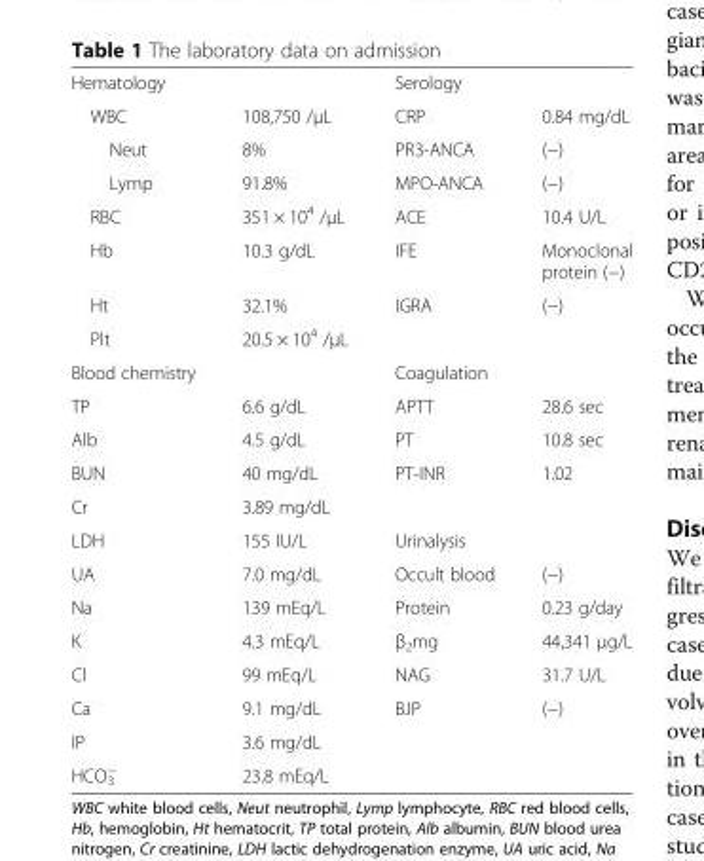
<table><tbody><tr><td>Hematology</td><td></td><td>Serology</td><td></td></tr><tr><td>WBC</td><td>108,750 /μL</td><td>CRP</td><td>0.84 mg/dL</td></tr><tr><td>Neut</td><td>8%</td><td>PR3-ANCA</td><td>(−)</td></tr><tr><td>Lymp</td><td>91.8%</td><td>MPO-ANCA</td><td>(−)</td></tr><tr><td>RBC</td><td>351 × 10<sup>4</sup> /μL</td><td>ACE</td><td>10.4 U/L</td></tr><tr><td>Hb</td><td>10.3 g/dL</td><td>IFE</td><td>Monoclonal protein (−)</td></tr><tr><td>Ht</td><td>32.1%</td><td>IGRA</td><td>(−)</td></tr><tr><td>Plt</td><td>20.5 × 10<sup>4</sup> /μL</td><td></td><td></td></tr><tr><td>Blood chemistry</td><td></td><td>Coagulation</td><td></td></tr><tr><td>TP</td><td>6.6 g/dL</td><td>APTT</td><td>28.6 sec</td></tr><tr><td>Alb</td><td>4.5 g/dL</td><td>PT</td><td>10.8 sec</td></tr><tr><td>BUN</td><td>40 mg/dL</td><td>PT-INR</td><td>1.02</td></tr><tr><td>Cr</td><td>3.89 mg/dL</td><td></td><td></td></tr><tr><td>LDH</td><td>155 IU/L</td><td>Urinalysis</td><td></td></tr><tr><td>UA</td><td>7.0 mg/dL</td><td>Occult blood</td><td>(−)</td></tr><tr><td>Na</td><td>139 mEq/L</td><td>Protein</td><td>0.23 g/day</td></tr><tr><td>K</td><td>4.3 mEq/L</td><td>β<sub>2</sub>mg</td><td>44,341 μg/L</td></tr><tr><td>Cl</td><td>99 mEq/L</td><td>NAG</td><td>31.7 U/L</td></tr><tr><td>Ca</td><td>9.1 mg/dL</td><td>BJP</td><td>(−)</td></tr><tr><td>IP</td><td>3.6 mg/dL</td><td></td><td></td></tr><tr><td>HCO<sub>3</sub> <sup>−</sup></td><td>23.8 mEq/L</td><td></td><td></td></tr></tbody></table>